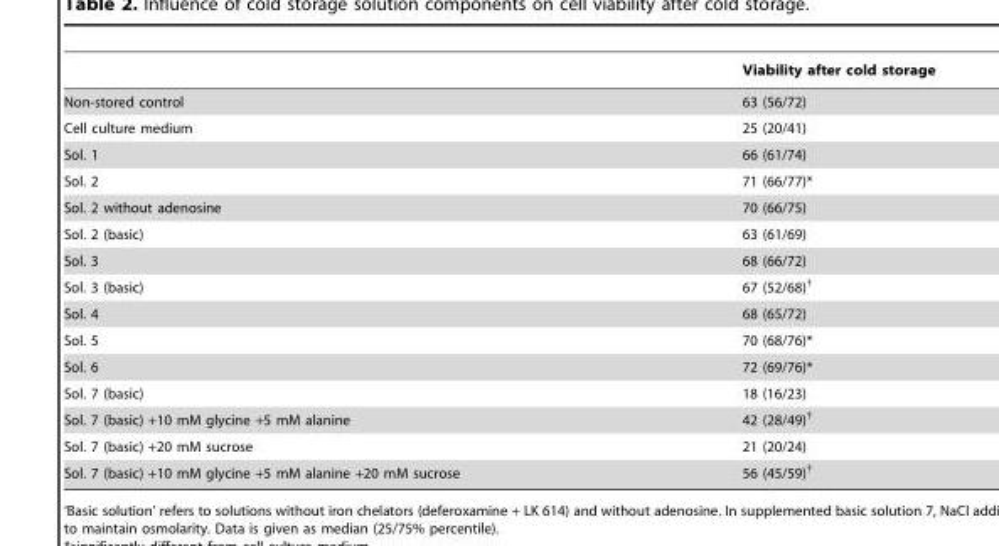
<table><thead><tr><td></td><td>Viability after cold storage</td></tr></thead><tbody><tr><td>Non-stored control</td><td>63 (56/72)</td></tr><tr><td>Cell culture medium</td><td>25 (20/41)</td></tr><tr><td>Sol. 1</td><td>66 (61/74)</td></tr><tr><td>Sol. 2</td><td>71 (66/77)*</td></tr><tr><td>Sol. 2 without adenosine</td><td>70 (66/75)</td></tr><tr><td>Sol. 2 (basic)</td><td>63 (61/69)</td></tr><tr><td>Sol. 3</td><td>68 (66/72)</td></tr><tr><td>Sol. 3 (basic)</td><td>67 (52/68)†</td></tr><tr><td>Sol. 4</td><td>68 (65/72)</td></tr><tr><td>Sol. 5</td><td>70 (68/76)*</td></tr><tr><td>Sol. 6</td><td>72 (69/76)*</td></tr><tr><td>Sol. 7 (basic)</td><td>18 (16/23)</td></tr><tr><td>Sol. 7 (basic) +10 mM glycine +5 mM alanine</td><td>42 (28/49)†</td></tr><tr><td>Sol. 7 (basic) +20 mM sucrose</td><td>21 (20/24)</td></tr><tr><td>Sol. 7 (basic) +10 mM glycine +5 mM alanine +20 mM sucrose</td><td>56 (45/59)†</td></tr></tbody></table>